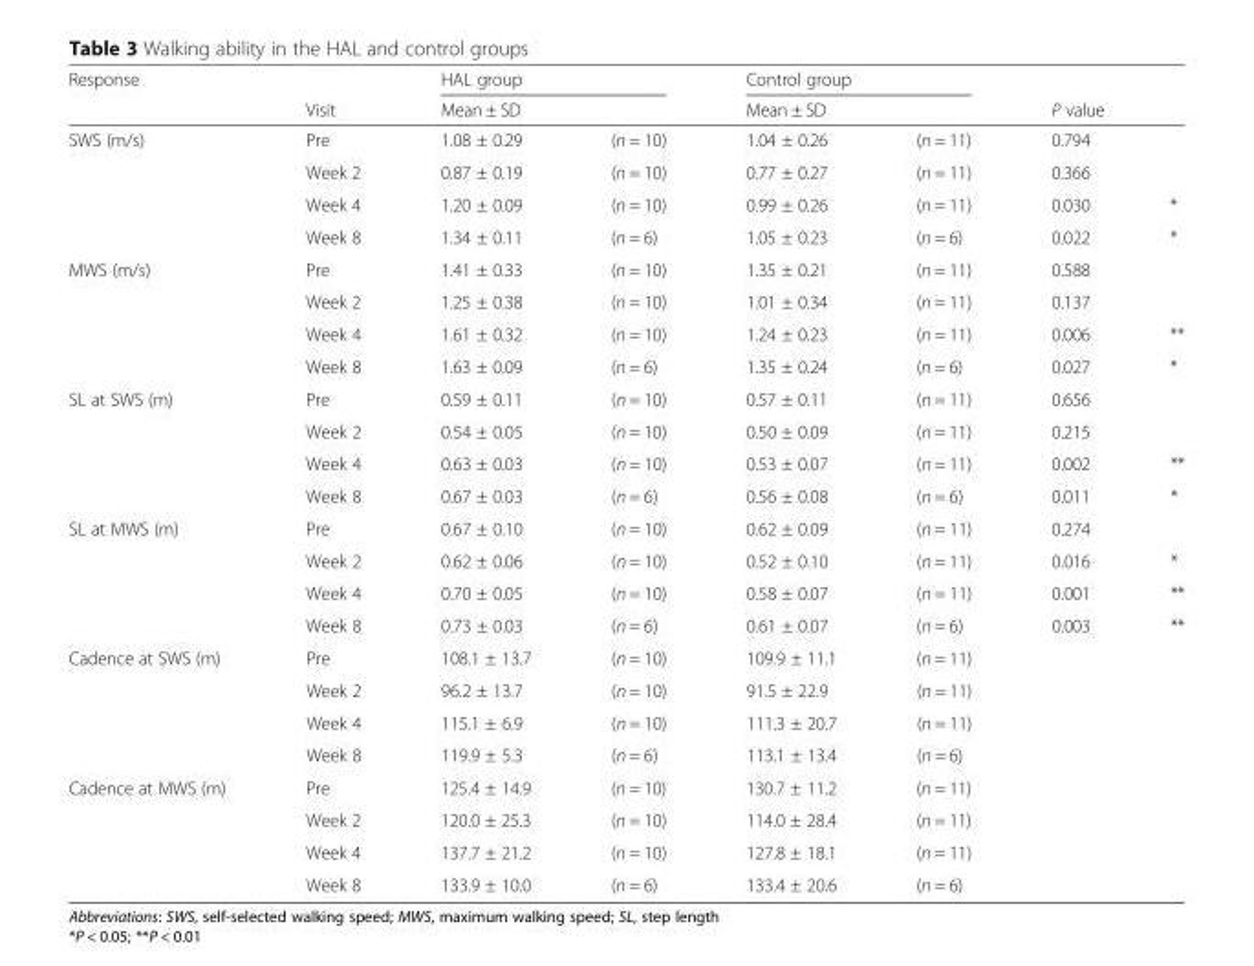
<table><thead><tr><td rowspan="2">Response</td><td rowspan="2">Visit</td><td colspan="2">HAL group</td><td colspan="2">Control group</td><td></td><td></td></tr><tr><td>Mean ± SD</td><td></td><td>Mean ± SD</td><td></td><td colspan="2">P value</td></tr></thead><tbody><tr><td rowspan="4">SWS (m/s)</td><td>Pre</td><td>1.08 ± 0.29</td><td>(n = 10)</td><td>1.04 ± 0.26</td><td>(n = 11)</td><td>0.794</td><td></td></tr><tr><td>Week 2</td><td>0.87 ± 0.19</td><td>(n = 10)</td><td>0.77 ± 0.27</td><td>(n = 11)</td><td>0.366</td><td></td></tr><tr><td>Week 4</td><td>1.20 ± 0.09</td><td>(n = 10)</td><td>0.99 ± 0.26</td><td>(n = 11)</td><td>0.030</td><td>*</td></tr><tr><td>Week 8</td><td>1.34 ± 0.11</td><td>(n = 6)</td><td>1.05 ± 0.23</td><td>(n = 6)</td><td>0.022</td><td>*</td></tr><tr><td rowspan="4">MWS (m/s)</td><td>Pre</td><td>1.41 ± 0.33</td><td>(n = 10)</td><td>1.35 ± 0.21</td><td>(n = 11)</td><td>0.588</td><td></td></tr><tr><td>Week 2</td><td>1.25 ± 0.38</td><td>(n = 10)</td><td>1.01 ± 0.34</td><td>(n = 11)</td><td>0.137</td><td></td></tr><tr><td>Week 4</td><td>1.61 ± 0.32</td><td>(n = 10)</td><td>1.24 ± 0.23</td><td>(n = 11)</td><td>0.006</td><td>**</td></tr><tr><td>Week 8</td><td>1.63 ± 0.09</td><td>(n = 6)</td><td>1.35 ± 0.24</td><td>(n = 6)</td><td>0.027</td><td>*</td></tr><tr><td rowspan="4">SL at SWS (m)</td><td>Pre</td><td>0.59 ± 0.11</td><td>(n = 10)</td><td>0.57 ± 0.11</td><td>(n = 11)</td><td>0.656</td><td></td></tr><tr><td>Week 2</td><td>0.54 ± 0.05</td><td>(n = 10)</td><td>0.50 ± 0.09</td><td>(n = 11)</td><td>0.215</td><td></td></tr><tr><td>Week 4</td><td>0.63 ± 0.03</td><td>(n = 10)</td><td>0.53 ± 0.07</td><td>(n = 11)</td><td>0.002</td><td>**</td></tr><tr><td>Week 8</td><td>0.67 ± 0.03</td><td>(n = 6)</td><td>0.56 ± 0.08</td><td>(n = 6)</td><td>0.011</td><td>*</td></tr><tr><td rowspan="4">SL at MWS (m)</td><td>Pre</td><td>0.67 ± 0.10</td><td>(n = 10)</td><td>0.62 ± 0.09</td><td>(n = 11)</td><td>0.274</td><td></td></tr><tr><td>Week 2</td><td>0.62 ± 0.06</td><td>(n = 10)</td><td>0.52 ± 0.10</td><td>(n = 11)</td><td>0.016</td><td>*</td></tr><tr><td>Week 4</td><td>0.70 ± 0.05</td><td>(n = 10)</td><td>0.58 ± 0.07</td><td>(n = 11)</td><td>0.001</td><td>**</td></tr><tr><td>Week 8</td><td>0.73 ± 0.03</td><td>(n = 6)</td><td>0.61 ± 0.07</td><td>(n = 6)</td><td>0.003</td><td>**</td></tr><tr><td rowspan="4">Cadence at SWS (m)</td><td>Pre</td><td>108.1 ± 13.7</td><td>(n = 10)</td><td>109.9 ± 11.1</td><td>(n = 11)</td><td></td><td></td></tr><tr><td>Week 2</td><td>96.2 ± 13.7</td><td>(n = 10)</td><td>91.5 ± 22.9</td><td>(n = 11)</td><td></td><td></td></tr><tr><td>Week 4</td><td>115.1 ± 6.9</td><td>(n = 10)</td><td>111.3 ± 20.7</td><td>(n = 11)</td><td></td><td></td></tr><tr><td>Week 8</td><td>119.9 ± 5.3</td><td>(n = 6)</td><td>113.1 ± 13.4</td><td>(n = 6)</td><td></td><td></td></tr><tr><td rowspan="4">Cadence at MWS (m)</td><td>Pre</td><td>125.4 ± 14.9</td><td>(n = 10)</td><td>130.7 ± 11.2</td><td>(n = 11)</td><td></td><td></td></tr><tr><td>Week 2</td><td>120.0 ± 25.3</td><td>(n = 10)</td><td>114.0 ± 28.4</td><td>(n = 11)</td><td></td><td></td></tr><tr><td>Week 4</td><td>137.7 ± 21.2</td><td>(n = 10)</td><td>127.8 ± 18.1</td><td>(n = 11)</td><td></td><td></td></tr><tr><td>Week 8</td><td>133.9 ± 10.0</td><td>(n = 6)</td><td>133.4 ± 20.6</td><td>(n = 6)</td><td></td><td></td></tr></tbody></table>